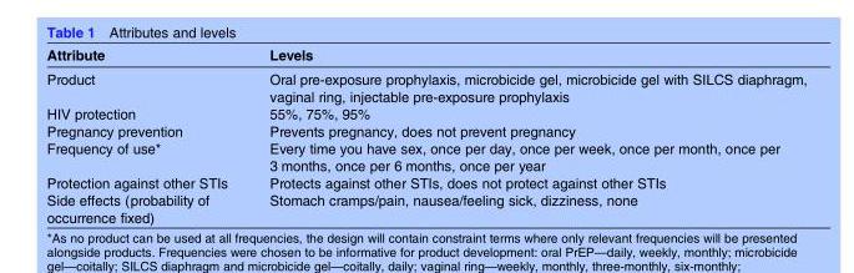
<table><thead><tr><td>Attribute</td><td>Levels</td></tr></thead><tbody><tr><td>Product</td><td>Oral pre-exposure prophylaxis, microbicide gel, microbicide gel with SILCS diaphragm, vaginal ring, injectable pre-exposure prophylaxis</td></tr><tr><td>HIV protection</td><td>55%, 75%, 95%</td></tr><tr><td>Pregnancy prevention</td><td>Prevents pregnancy, does not prevent pregnancy</td></tr><tr><td>Frequency of use*</td><td>Every time you have sex, once per day, once per week, once per month, once per 3 months, once per 6 months, once per year</td></tr><tr><td>Protection against other STIs</td><td>Protects against other STIs, does not protect against other STIs</td></tr><tr><td>Side effects (probability of occurrence fixed)</td><td>Stomach cramps/pain, nausea/feeling sick, dizziness, none</td></tr></tbody></table>